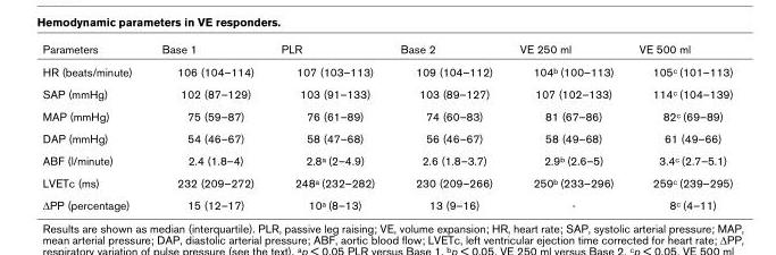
<table><thead><tr><td>Parameters</td><td>Base 1</td><td>PLR</td><td>Base 2</td><td>VE 250 ml</td><td>VE 500 ml</td></tr></thead><tbody><tr><td>HR (beats/minute)</td><td>106 (104–114)</td><td>107 (103–113)</td><td>109 (104–112)</td><td>104b (100–113)</td><td>105c (101–113)</td></tr><tr><td>SAP (mmHg)</td><td>102 (87–129)</td><td>103 (91–133)</td><td>103 (89–127)</td><td>107 (102–133)</td><td>114c (104–139)</td></tr><tr><td>MAP (mmHg)</td><td>75 (59–87)</td><td>76 (61–89)</td><td>74 (60–83)</td><td>81 (67–86)</td><td>82c (69–89)</td></tr><tr><td>DAP (mmHg)</td><td>54 (46–67)</td><td>58 (47–68)</td><td>56 (46–67)</td><td>58 (49–68)</td><td>61 (49–66)</td></tr><tr><td>ABF (l/minute)</td><td>2.4 (1.8–4)</td><td>2.8a (2–4.9)</td><td>2.6 (1.8–3.7)</td><td>2.9b (2.6–5)</td><td>3.4c (2.7–5.1)</td></tr><tr><td>LVETc (ms)</td><td>232 (209–272)</td><td>248a (232–282)</td><td>230 (209–266)</td><td>250b (233–296)</td><td>259c (239–295)</td></tr><tr><td>∆PP (percentage)</td><td>15 (12–17)</td><td>10a (8–13)</td><td>13 (9–16)</td><td>-</td><td>8c (4–11)</td></tr></tbody></table>